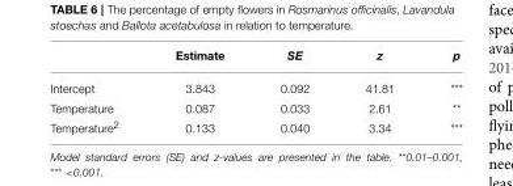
<table><thead><tr><td></td><td>Estimate</td><td>SE</td><td>z</td><td>p</td></tr></thead><tbody><tr><td>Intercept</td><td>3.843</td><td>0.092</td><td>41.81</td><td>***</td></tr><tr><td>Temperature</td><td>0.087</td><td>0.033</td><td>2.61</td><td>**</td></tr><tr><td>Temperature<sup>2</sup></td><td>0.133</td><td>0.040</td><td>3.34</td><td>***</td></tr></tbody></table>